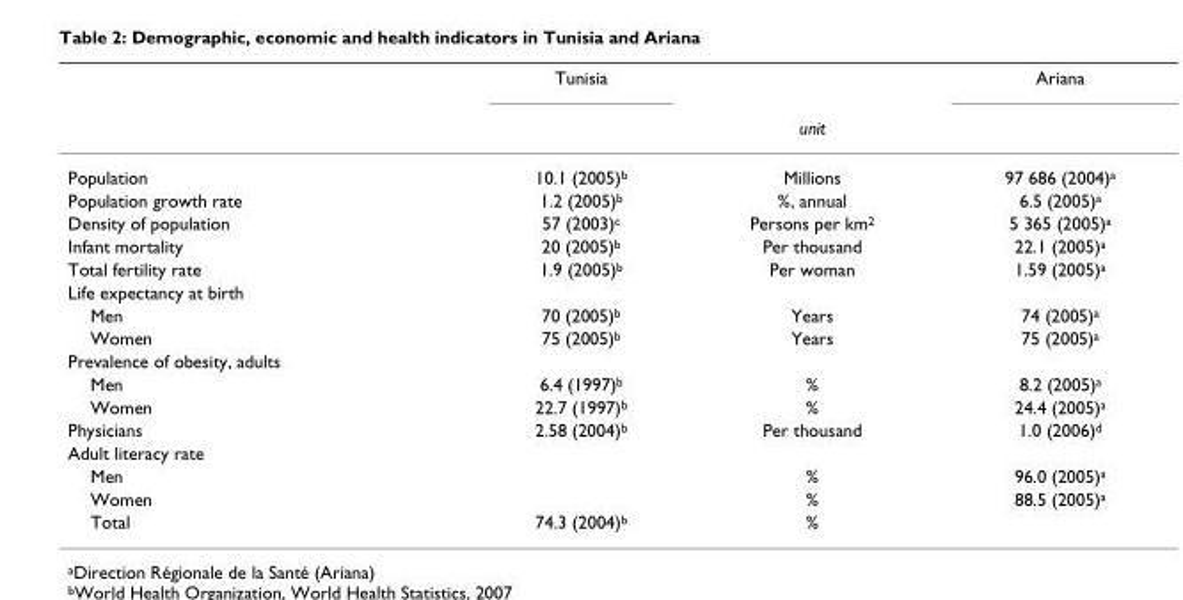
<table><thead><tr><td rowspan="2"></td><td rowspan="2">Tunisia</td><td rowspan="2">unit</td><td rowspan="2">Ariana</td></tr><tr></tr></thead><tbody><tr><td>Population</td><td>10.1 (2005)<sup>b</sup></td><td>Millions</td><td>97 686 (2004)<sup>a</sup></td></tr><tr><td>Population growth rate</td><td>1.2 (2005)<sup>b</sup></td><td>%, annual</td><td>6.5 (2005)<sup>a</sup></td></tr><tr><td>Density of population</td><td>57 (2003)<sup>c</sup></td><td>Persons per km<sup>2</sup></td><td>5 365 (2005)<sup>a</sup></td></tr><tr><td>Infant mortality</td><td>20 (2005)<sup>b</sup></td><td>Per thousand</td><td>22.1 (2005)<sup>a</sup></td></tr><tr><td>Total fertility rate</td><td>1.9 (2005)<sup>b</sup></td><td>Per woman</td><td>1.59 (2005)<sup>a</sup></td></tr><tr><td colspan="4">Life expectancy at birth</td></tr><tr><td>Men</td><td>70 (2005)<sup>b</sup></td><td>Years</td><td>74 (2005)<sup>a</sup></td></tr><tr><td>Women</td><td>75 (2005)<sup>b</sup></td><td>Years</td><td>75 (2005)<sup>a</sup></td></tr><tr><td colspan="4">Prevalence of obesity, adults</td></tr><tr><td>Men</td><td>6.4 (1997)<sup>b</sup></td><td>%</td><td>8.2 (2005)<sup>a</sup></td></tr><tr><td>Women</td><td>22.7 (1997)<sup>b</sup></td><td>%</td><td>24.4 (2005)<sup>a</sup></td></tr><tr><td>Physicians</td><td>2.58 (2004)<sup>b</sup></td><td>Per thousand</td><td>1.0 (2006)<sup>d</sup></td></tr><tr><td colspan="4">Adult literacy rate</td></tr><tr><td>Men</td><td></td><td>%</td><td>96.0 (2005)<sup>a</sup></td></tr><tr><td>Women</td><td></td><td>%</td><td>88.5 (2005)<sup>a</sup></td></tr><tr><td>Total</td><td>74.3 (2004)<sup>b</sup></td><td>%</td><td></td></tr></tbody></table>